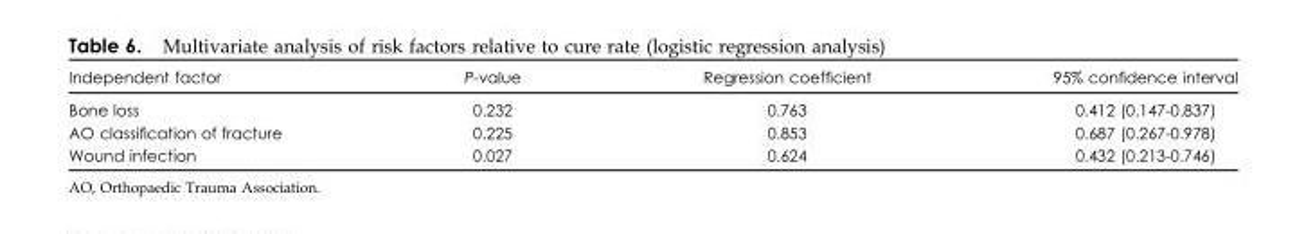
<table><thead><tr><td>Independent factor</td><td>P-value</td><td>Regression coefficient</td><td>95% confidence interval</td></tr></thead><tbody><tr><td>Bone loss</td><td>0.232</td><td>0.763</td><td>0.412 (0.147-0.837)</td></tr><tr><td>AO classification of fracture</td><td>0.225</td><td>0.853</td><td>0.687 (0.267-0.978)</td></tr><tr><td>Wound infection</td><td>0.027</td><td>0.624</td><td>0.432 (0.213-0.746)</td></tr></tbody></table>